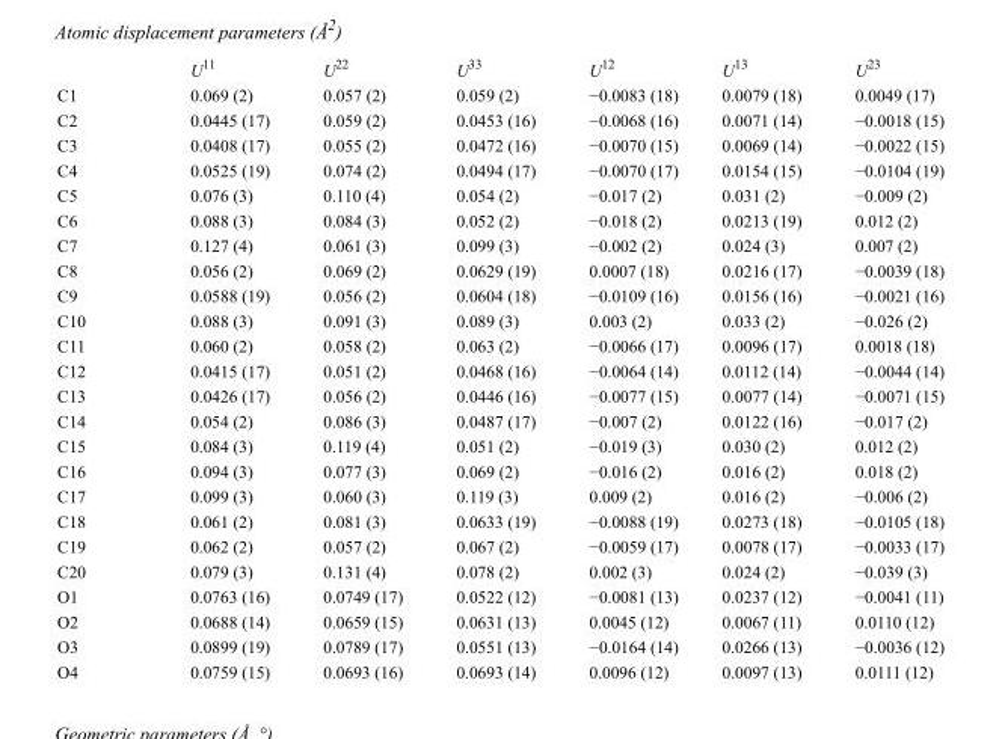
<table><thead><tr><td></td><td>U<sup>11</sup></td><td>U<sup>22</sup></td><td>U<sup>33</sup></td><td>U<sup>12</sup></td><td>U<sup>13</sup></td><td>U<sup>23</sup></td></tr></thead><tbody><tr><td>C1</td><td>0.069 (2)</td><td>0.057 (2)</td><td>0.059 (2)</td><td>−0.0083 (18)</td><td>0.0079 (18)</td><td>0.0049 (17)</td></tr><tr><td>C2</td><td>0.0445 (17)</td><td>0.059 (2)</td><td>0.0453 (16)</td><td>−0.0068 (16)</td><td>0.0071 (14)</td><td>−0.0018 (15)</td></tr><tr><td>C3</td><td>0.0408 (17)</td><td>0.055 (2)</td><td>0.0472 (16)</td><td>−0.0070 (15)</td><td>0.0069 (14)</td><td>−0.0022 (15)</td></tr><tr><td>C4</td><td>0.0525 (19)</td><td>0.074 (2)</td><td>0.0494 (17)</td><td>−0.0070 (17)</td><td>0.0154 (15)</td><td>−0.0104 (19)</td></tr><tr><td>C5</td><td>0.076 (3)</td><td>0.110 (4)</td><td>0.054 (2)</td><td>−0.017 (2)</td><td>0.031 (2)</td><td>−0.009 (2)</td></tr><tr><td>C6</td><td>0.088 (3)</td><td>0.084 (3)</td><td>0.052 (2)</td><td>−0.018 (2)</td><td>0.0213 (19)</td><td>0.012 (2)</td></tr><tr><td>C7</td><td>0.127 (4)</td><td>0.061 (3)</td><td>0.099 (3)</td><td>−0.002 (2)</td><td>0.024 (3)</td><td>0.007 (2)</td></tr><tr><td>C8</td><td>0.056 (2)</td><td>0.069 (2)</td><td>0.0629 (19)</td><td>0.0007 (18)</td><td>0.0216 (17)</td><td>−0.0039 (18)</td></tr><tr><td>C9</td><td>0.0588 (19)</td><td>0.056 (2)</td><td>0.0604 (18)</td><td>−0.0109 (16)</td><td>0.0156 (16)</td><td>−0.0021 (16)</td></tr><tr><td>C10</td><td>0.088 (3)</td><td>0.091 (3)</td><td>0.089 (3)</td><td>0.003 (2)</td><td>0.033 (2)</td><td>−0.026 (2)</td></tr><tr><td>C11</td><td>0.060 (2)</td><td>0.058 (2)</td><td>0.063 (2)</td><td>−0.0066 (17)</td><td>0.0096 (17)</td><td>0.0018 (18)</td></tr><tr><td>C12</td><td>0.0415 (17)</td><td>0.051 (2)</td><td>0.0468 (16)</td><td>−0.0064 (14)</td><td>0.0112 (14)</td><td>−0.0044 (14)</td></tr><tr><td>C13</td><td>0.0426 (17)</td><td>0.056 (2)</td><td>0.0446 (16)</td><td>−0.0077 (15)</td><td>0.0077 (14)</td><td>−0.0071 (15)</td></tr><tr><td>C14</td><td>0.054 (2)</td><td>0.086 (3)</td><td>0.0487 (17)</td><td>−0.007 (2)</td><td>0.0122 (16)</td><td>−0.017 (2)</td></tr><tr><td>C15</td><td>0.084 (3)</td><td>0.119 (4)</td><td>0.051 (2)</td><td>−0.019 (3)</td><td>0.030 (2)</td><td>0.012 (2)</td></tr><tr><td>C16</td><td>0.094 (3)</td><td>0.077 (3)</td><td>0.069 (2)</td><td>−0.016 (2)</td><td>0.016 (2)</td><td>0.018 (2)</td></tr><tr><td>C17</td><td>0.099 (3)</td><td>0.060 (3)</td><td>0.119 (3)</td><td>0.009 (2)</td><td>0.016 (2)</td><td>−0.006 (2)</td></tr><tr><td>C18</td><td>0.061 (2)</td><td>0.081 (3)</td><td>0.0633 (19)</td><td>−0.0088 (19)</td><td>0.0273 (18)</td><td>−0.0105 (18)</td></tr><tr><td>C19</td><td>0.062 (2)</td><td>0.057 (2)</td><td>0.067 (2)</td><td>−0.0059 (17)</td><td>0.0078 (17)</td><td>−0.0033 (17)</td></tr><tr><td>C20</td><td>0.079 (3)</td><td>0.131 (4)</td><td>0.078 (2)</td><td>0.002 (3)</td><td>0.024 (2)</td><td>−0.039 (3)</td></tr><tr><td>O1</td><td>0.0763 (16)</td><td>0.0749 (17)</td><td>0.0522 (12)</td><td>−0.0081 (13)</td><td>0.0237 (12)</td><td>−0.0041 (11)</td></tr><tr><td>O2</td><td>0.0688 (14)</td><td>0.0659 (15)</td><td>0.0631 (13)</td><td>0.0045 (12)</td><td>0.0067 (11)</td><td>0.0110 (12)</td></tr><tr><td>O3</td><td>0.0899 (19)</td><td>0.0789 (17)</td><td>0.0551 (13)</td><td>−0.0164 (14)</td><td>0.0266 (13)</td><td>−0.0036 (12)</td></tr><tr><td>O4</td><td>0.0759 (15)</td><td>0.0693 (16)</td><td>0.0693 (14)</td><td>0.0096 (12)</td><td>0.0097 (13)</td><td>0.0111 (12)</td></tr></tbody></table>